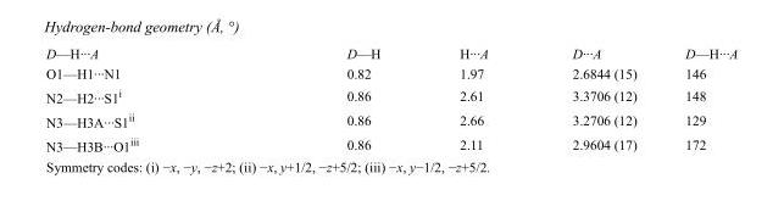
<table><tbody><tr><td>D—H···A</td><td>D—H</td><td>H···A</td><td>D···A</td><td>D—H···A</td></tr><tr><td>O1—H1···N1</td><td>0.82</td><td>1.97</td><td>2.6844 (15)</td><td>146</td></tr><tr><td>N2—H2···S1<sup>i</sup></td><td>0.86</td><td>2.61</td><td>3.3706 (12)</td><td>148</td></tr><tr><td>N3—H3A···S1<sup>ii</sup></td><td>0.86</td><td>2.66</td><td>3.2706 (12)</td><td>129</td></tr><tr><td>N3—H3B···O1<sup>iii</sup></td><td>0.86</td><td>2.11</td><td>2.9604 (17)</td><td>172</td></tr></tbody></table>